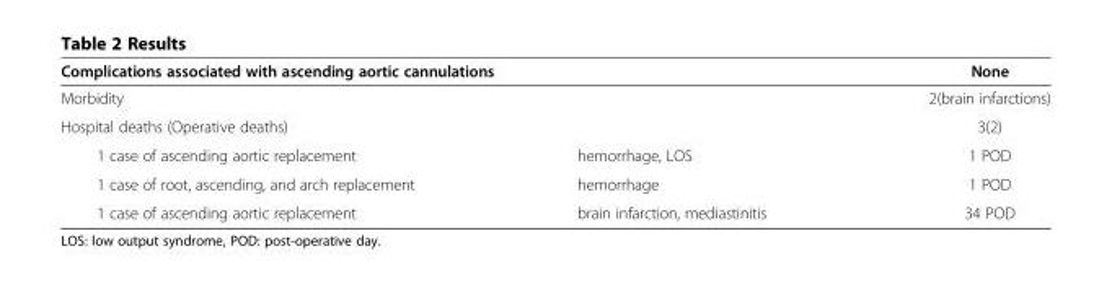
<table><thead><tr><td colspan="2">Complications associated with ascending aortic cannulations</td><td rowspan="2">None 2(brain infarctions)</td></tr><tr><td>Morbidity</td><td></td></tr></thead><tbody><tr><td>Hospital deaths (Operative deaths)</td><td></td><td>3(2)</td></tr><tr><td>1 case of ascending aortic replacement</td><td>hemorrhage, LOS</td><td>1 POD</td></tr><tr><td>1 case of root, ascending, and arch replacement</td><td>hemorrhage</td><td>1 POD</td></tr><tr><td>1 case of ascending aortic replacement</td><td>brain infarction, mediastinitis</td><td>34 POD</td></tr></tbody></table>